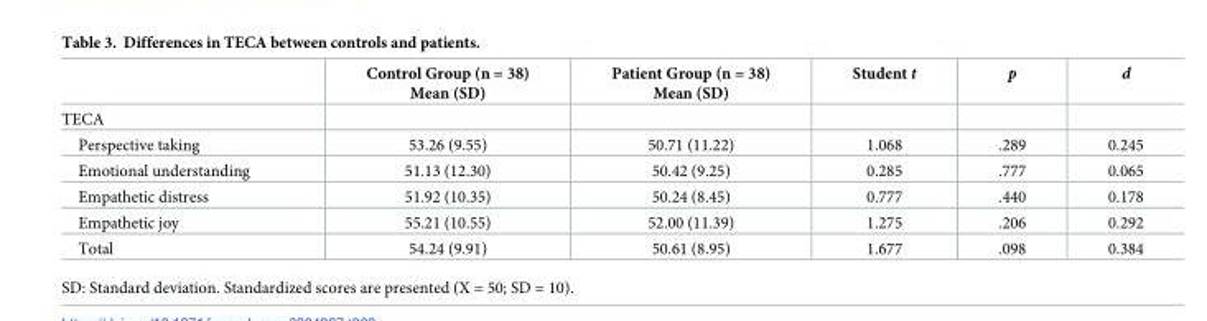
<table><thead><tr><td></td><td>Control Group (n = 38) Mean (SD)</td><td>Patient Group (n = 38) Mean (SD)</td><td>Student t</td><td>p</td><td>d</td></tr></thead><tbody><tr><td colspan="6">TECA</td></tr><tr><td>Perspective taking</td><td>53.26 (9.55)</td><td>50.71 (11.22)</td><td>1.068</td><td>.289</td><td>0.245</td></tr><tr><td>Emotional understanding</td><td>51.13 (12.30)</td><td>50.42 (9.25)</td><td>0.285</td><td>.777</td><td>0.065</td></tr><tr><td>Empathetic distress</td><td>51.92 (10.35)</td><td>50.24 (8.45)</td><td>0.777</td><td>.440</td><td>0.178</td></tr><tr><td>Empathetic joy</td><td>55.21 (10.55)</td><td>52.00 (11.39)</td><td>1.275</td><td>.206</td><td>0.292</td></tr><tr><td>Total</td><td>54.24 (9.91)</td><td>50.61 (8.95)</td><td>1.677</td><td>.098</td><td>0.384</td></tr></tbody></table>